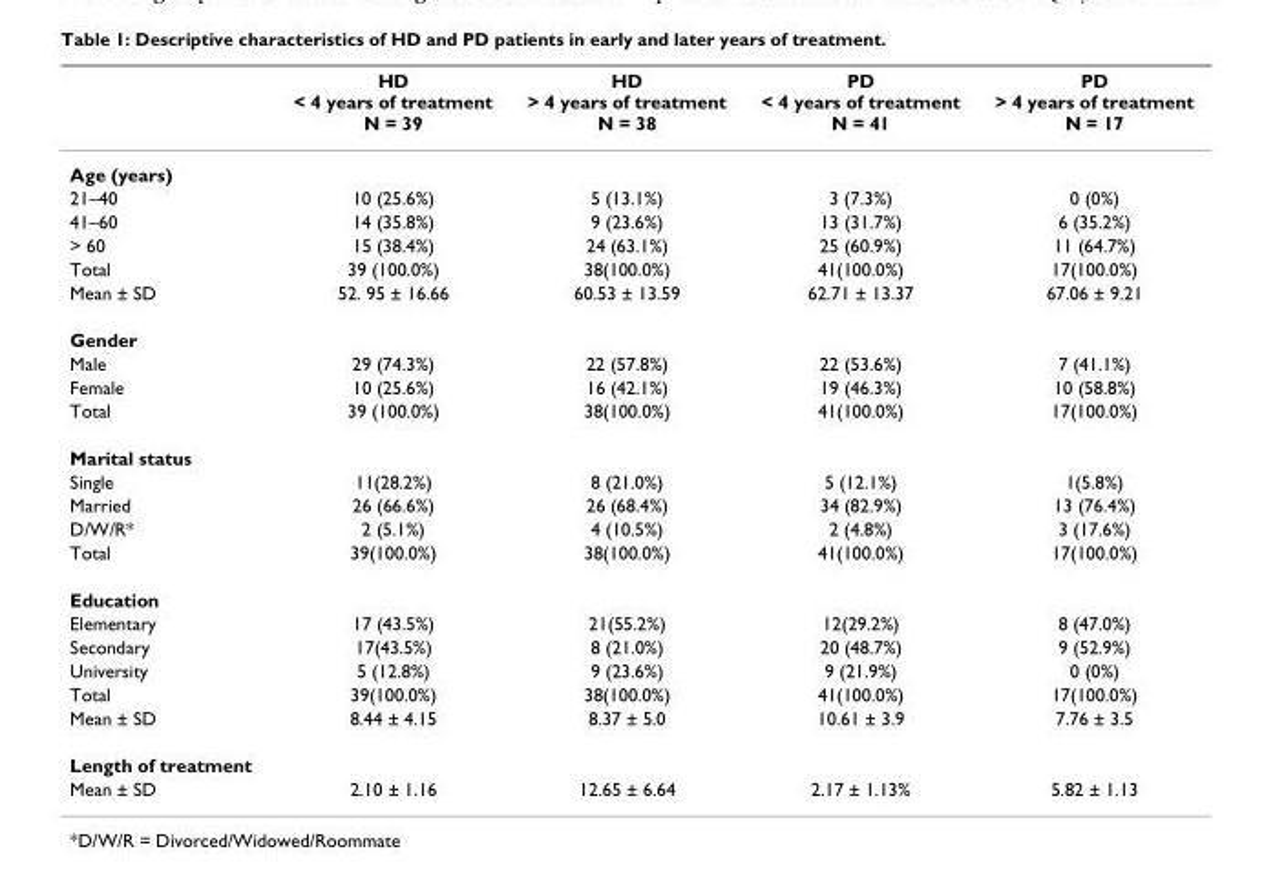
<table><thead><tr><td></td><td>HD &lt; 4 years of treatment N = 39</td><td>HD &gt; 4 years of treatment N = 38</td><td>PD &lt; 4 years of treatment N = 41</td><td>PD &gt; 4 years of treatment N = 17</td></tr></thead><tbody><tr><td colspan="5">Age (years)</td></tr><tr><td>21–40</td><td>10 (25.6%)</td><td>5 (13.1%)</td><td>3 (7.3%)</td><td>0 (0%)</td></tr><tr><td>41–60</td><td>14 (35.8%)</td><td>9 (23.6%)</td><td>13 (31.7%)</td><td>6 (35.2%)</td></tr><tr><td>&gt; 60</td><td>15 (38.4%)</td><td>24 (63.1%)</td><td>25 (60.9%)</td><td>11 (64.7%)</td></tr><tr><td>Total</td><td>39 (100.0%)</td><td>38(100.0%)</td><td>41(100.0%)</td><td>17(100.0%)</td></tr><tr><td>Mean ± SD</td><td>52. 95 ± 16.66</td><td>60.53 ± 13.59</td><td>62.71 ± 13.37</td><td>67.06 ± 9.21</td></tr><tr><td colspan="5">Gender</td></tr><tr><td>Male</td><td>29 (74.3%)</td><td>22 (57.8%)</td><td>22 (53.6%)</td><td>7 (41.1%)</td></tr><tr><td>Female</td><td>10 (25.6%)</td><td>16 (42.1%)</td><td>19 (46.3%)</td><td>10 (58.8%)</td></tr><tr><td>Total</td><td>39 (100.0%)</td><td>38(100.0%)</td><td>41(100.0%)</td><td>17(100.0%)</td></tr><tr><td colspan="5">Marital status</td></tr><tr><td>Single</td><td>11(28.2%)</td><td>8 (21.0%)</td><td>5 (12.1%)</td><td>1(5.8%)</td></tr><tr><td>Married</td><td>26 (66.6%)</td><td>26 (68.4%)</td><td>34 (82.9%)</td><td>13 (76.4%)</td></tr><tr><td>D/W/R*</td><td>2 (5.1%)</td><td>4 (10.5%)</td><td>2 (4.8%)</td><td>3 (17.6%)</td></tr><tr><td>Total</td><td>39(100.0%)</td><td>38(100.0%)</td><td>41(100.0%)</td><td>17(100.0%)</td></tr><tr><td colspan="5">Education</td></tr><tr><td>Elementary</td><td>17 (43.5%)</td><td>21(55.2%)</td><td>12(29.2%)</td><td>8 (47.0%)</td></tr><tr><td>Secondary</td><td>17(43.5%)</td><td>8 (21.0%)</td><td>20 (48.7%)</td><td>9 (52.9%)</td></tr><tr><td>University</td><td>5 (12.8%)</td><td>9 (23.6%)</td><td>9 (21.9%)</td><td>0 (0%)</td></tr><tr><td>Total</td><td>39(100.0%)</td><td>38(100.0%)</td><td>41(100.0%)</td><td>17(100.0%)</td></tr><tr><td>Mean ± SD</td><td>8.44 ± 4.15</td><td>8.37 ± 5.0</td><td>10.61 ± 3.9</td><td>7.76 ± 3.5</td></tr><tr><td colspan="5">Length of treatment</td></tr><tr><td>Mean ± SD</td><td>2.10 ± 1.16</td><td>12.65 ± 6.64</td><td>2.17 ± 1.13%</td><td>5.82 ± 1.13</td></tr></tbody></table>